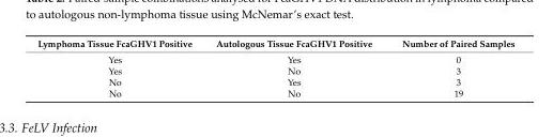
<table><thead><tr><td>Lymphoma Tissue FcaGHV1 Positive</td><td>Autologous Tissue FcaGHV1 Positive</td><td>Number of Paired Samples</td></tr></thead><tbody><tr><td>Yes</td><td>Yes</td><td>0</td></tr><tr><td>Yes</td><td>No</td><td>3</td></tr><tr><td>No</td><td>Yes</td><td>3</td></tr><tr><td>No</td><td>No</td><td>19</td></tr></tbody></table>